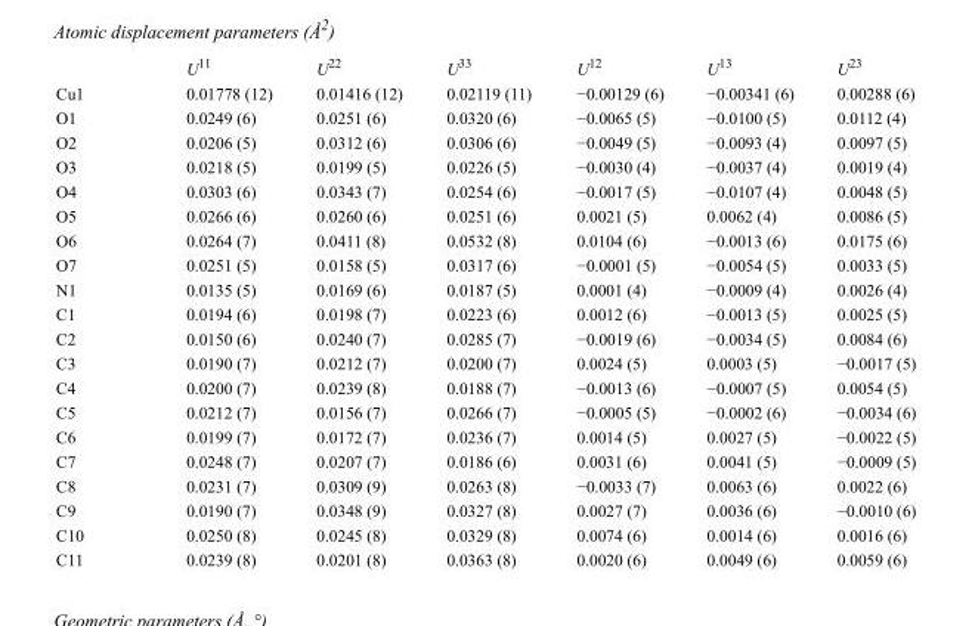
<table><thead><tr><td></td><td>U<sup>11</sup></td><td>U<sup>22</sup></td><td>U<sup>33</sup></td><td>U<sup>12</sup></td><td>U<sup>13</sup></td><td>U<sup>23</sup></td></tr></thead><tbody><tr><td>Cu1</td><td>0.01778 (12)</td><td>0.01416 (12)</td><td>0.02119 (11)</td><td>−0.00129 (6)</td><td>−0.00341 (6)</td><td>0.00288 (6)</td></tr><tr><td>O1</td><td>0.0249 (6)</td><td>0.0251 (6)</td><td>0.0320 (6)</td><td>−0.0065 (5)</td><td>−0.0100 (5)</td><td>0.0112 (4)</td></tr><tr><td>O2</td><td>0.0206 (5)</td><td>0.0312 (6)</td><td>0.0306 (6)</td><td>−0.0049 (5)</td><td>−0.0093 (4)</td><td>0.0097 (5)</td></tr><tr><td>O3</td><td>0.0218 (5)</td><td>0.0199 (5)</td><td>0.0226 (5)</td><td>−0.0030 (4)</td><td>−0.0037 (4)</td><td>0.0019 (4)</td></tr><tr><td>O4</td><td>0.0303 (6)</td><td>0.0343 (7)</td><td>0.0254 (6)</td><td>−0.0017 (5)</td><td>−0.0107 (4)</td><td>0.0048 (5)</td></tr><tr><td>O5</td><td>0.0266 (6)</td><td>0.0260 (6)</td><td>0.0251 (6)</td><td>0.0021 (5)</td><td>0.0062 (4)</td><td>0.0086 (5)</td></tr><tr><td>O6</td><td>0.0264 (7)</td><td>0.0411 (8)</td><td>0.0532 (8)</td><td>0.0104 (6)</td><td>−0.0013 (6)</td><td>0.0175 (6)</td></tr><tr><td>O7</td><td>0.0251 (5)</td><td>0.0158 (5)</td><td>0.0317 (6)</td><td>−0.0001 (5)</td><td>−0.0054 (5)</td><td>0.0033 (5)</td></tr><tr><td>N1</td><td>0.0135 (5)</td><td>0.0169 (6)</td><td>0.0187 (5)</td><td>0.0001 (4)</td><td>−0.0009 (4)</td><td>0.0026 (4)</td></tr><tr><td>C1</td><td>0.0194 (6)</td><td>0.0198 (7)</td><td>0.0223 (6)</td><td>0.0012 (6)</td><td>−0.0013 (5)</td><td>0.0025 (5)</td></tr><tr><td>C2</td><td>0.0150 (6)</td><td>0.0240 (7)</td><td>0.0285 (7)</td><td>−0.0019 (6)</td><td>−0.0034 (5)</td><td>0.0084 (6)</td></tr><tr><td>C3</td><td>0.0190 (7)</td><td>0.0212 (7)</td><td>0.0200 (7)</td><td>0.0024 (5)</td><td>0.0003 (5)</td><td>−0.0017 (5)</td></tr><tr><td>C4</td><td>0.0200 (7)</td><td>0.0239 (8)</td><td>0.0188 (7)</td><td>−0.0013 (6)</td><td>−0.0007 (5)</td><td>0.0054 (5)</td></tr><tr><td>C5</td><td>0.0212 (7)</td><td>0.0156 (7)</td><td>0.0266 (7)</td><td>−0.0005 (5)</td><td>−0.0002 (6)</td><td>−0.0034 (6)</td></tr><tr><td>C6</td><td>0.0199 (7)</td><td>0.0172 (7)</td><td>0.0236 (7)</td><td>0.0014 (5)</td><td>0.0027 (5)</td><td>−0.0022 (5)</td></tr><tr><td>C7</td><td>0.0248 (7)</td><td>0.0207 (7)</td><td>0.0186 (6)</td><td>0.0031 (6)</td><td>0.0041 (5)</td><td>−0.0009 (5)</td></tr><tr><td>C8</td><td>0.0231 (7)</td><td>0.0309 (9)</td><td>0.0263 (8)</td><td>−0.0033 (7)</td><td>0.0063 (6)</td><td>0.0022 (6)</td></tr><tr><td>C9</td><td>0.0190 (7)</td><td>0.0348 (9)</td><td>0.0327 (8)</td><td>0.0027 (7)</td><td>0.0036 (6)</td><td>−0.0010 (6)</td></tr><tr><td>C10</td><td>0.0250 (8)</td><td>0.0245 (8)</td><td>0.0329 (8)</td><td>0.0074 (6)</td><td>0.0014 (6)</td><td>0.0016 (6)</td></tr><tr><td>C11</td><td>0.0239 (8)</td><td>0.0201 (8)</td><td>0.0363 (8)</td><td>0.0020 (6)</td><td>0.0049 (6)</td><td>0.0059 (6)</td></tr></tbody></table>